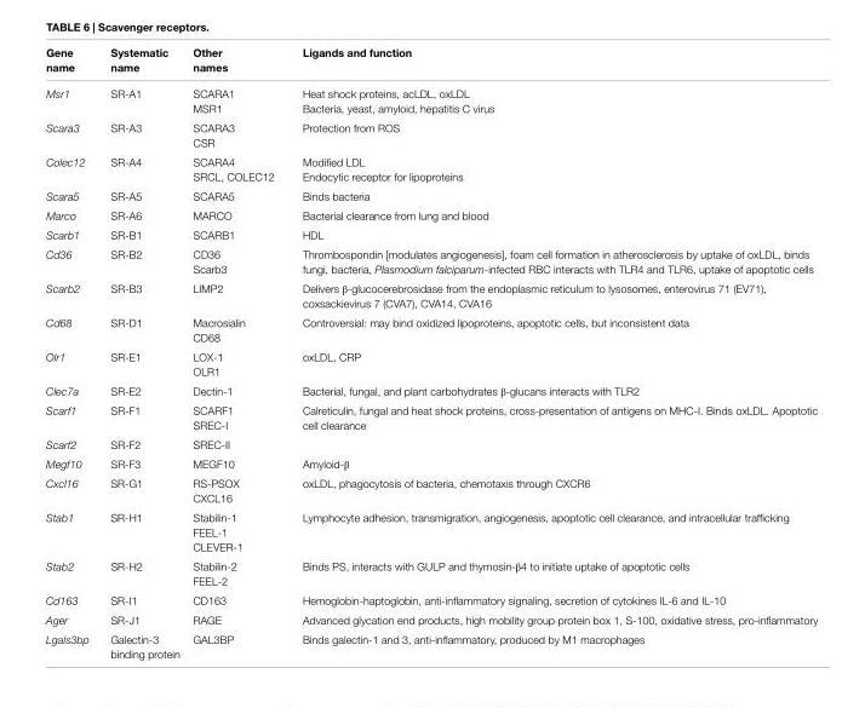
<table><thead><tr><td>Gene name</td><td>Systematic name</td><td>Other names</td><td>Ligands and function</td></tr></thead><tbody><tr><td>Msr1</td><td>SR-A1</td><td>SCARA1 MSR1</td><td>Heat shock proteins, acLDL, oxLDL Bacteria, yeast, amyloid, hepatitis C virus</td></tr><tr><td>Scara3</td><td>SR-A3</td><td>SCARA3 CSR</td><td>Protection from ROS</td></tr><tr><td>Colec12</td><td>SR-A4</td><td>SCARA4 SRCL, COLEC12</td><td>Modified LDL Endocytic receptor for lipoproteins</td></tr><tr><td>Scara5</td><td>SR-A5</td><td>SCARA5</td><td>Binds bacteria</td></tr><tr><td>Marco</td><td>SR-A6</td><td>MARCO</td><td>Bacterial clearance from lung and blood</td></tr><tr><td>Scarb1</td><td>SR-B1</td><td>SCARB1</td><td>HDL</td></tr><tr><td>Cd36</td><td>SR-B2</td><td>CD36 Scarb3</td><td>Thrombospondin [modulates angiogenesis], foam cell formation in atherosclerosis by uptake of oxLDL, binds fungi, bacteria, Plasmodium falciparum-infected RBC interacts with TLR4 and TLR6, uptake of apoptotic cells</td></tr><tr><td>Scarb2</td><td>SR-B3</td><td>LIMP2</td><td>Delivers β-glucocerebrosidase from the endoplasmic reticulum to lysosomes, enterovirus 71 (EV71), coxsackievirus 7 (CVA7), CVA14, CVA16</td></tr><tr><td>Cd68</td><td>SR-D1</td><td>Macrosialin CD68</td><td>Controversial: may bind oxidized lipoproteins, apoptotic cells, but inconsistent data</td></tr><tr><td>Olr1</td><td>SR-E1</td><td>LOX-1 OLR1</td><td>oxLDL, CRP</td></tr><tr><td>Clec7a</td><td>SR-E2</td><td>Dectin-1</td><td>Bacterial, fungal, and plant carbohydrates β-glucans interacts with TLR2</td></tr><tr><td>Scarf1</td><td>SR-F1</td><td>SCARF1 SREC-I</td><td>Calreticulin, fungal and heat shock proteins, cross-presentation of antigens on MHC-I. Binds oxLDL. Apoptotic cell clearance</td></tr><tr><td>Scarf2</td><td>SR-F2</td><td>SREC-II</td><td></td></tr><tr><td>Megf10</td><td>SR-F3</td><td>MEGF10</td><td>Amyloid-β</td></tr><tr><td>Cxcl16</td><td>SR-G1</td><td>RS-PSOX CXCL16</td><td>oxLDL, phagocytosis of bacteria, chemotaxis through CXCR6</td></tr><tr><td>Stab1</td><td>SR-H1</td><td>Stabilin-1 FEEL-1 CLEVER-1</td><td>Lymphocyte adhesion, transmigration, angiogenesis, apoptotic cell clearance, and intracellular trafficking</td></tr><tr><td>Stab2</td><td>SR-H2</td><td>Stabilin-2 FEEL-2</td><td>Binds PS, interacts with GULP and thymosin-β4 to initiate uptake of apoptotic cells</td></tr><tr><td>Cd163</td><td>SR-I1</td><td>CD163</td><td>Hemoglobin-haptoglobin, anti-inflammatory signaling, secretion of cytokines IL-6 and IL-10</td></tr><tr><td>Ager</td><td>SR-J1</td><td>RAGE</td><td>Advanced glycation end products, high mobility group protein box 1, S-100, oxidative stress, pro-inflammatory</td></tr><tr><td>Lgals3bp</td><td>Galectin-3 binding protein</td><td>GAL3BP</td><td>Binds galectin-1 and 3, anti-inflammatory, produced by M1 macrophages</td></tr></tbody></table>